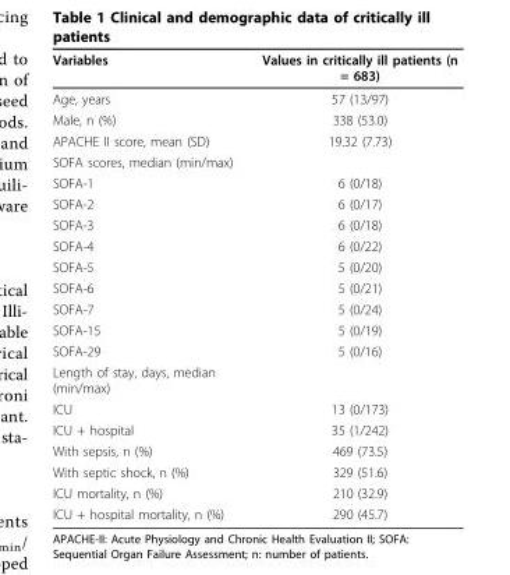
<table><thead><tr><td>Variables</td><td>Values in critically ill patients (n = 683)</td></tr></thead><tbody><tr><td>Age, years</td><td>57 (13/97)</td></tr><tr><td>Male, n (%)</td><td>338 (53.0)</td></tr><tr><td>APACHE II score, mean (SD)</td><td>19.32 (7.73)</td></tr><tr><td colspan="2">SOFA scores, median (min/max)</td></tr><tr><td>SOFA-1</td><td>6 (0/18)</td></tr><tr><td>SOFA-2</td><td>6 (0/17)</td></tr><tr><td>SOFA-3</td><td>6 (0/18)</td></tr><tr><td>SOFA-4</td><td>6 (0/22)</td></tr><tr><td>SOFA-5</td><td>5 (0/20)</td></tr><tr><td>SOFA-6</td><td>5 (0/21)</td></tr><tr><td>SOFA-7</td><td>5 (0/24)</td></tr><tr><td>SOFA-15</td><td>5 (0/19)</td></tr><tr><td>SOFA-29</td><td>5 (0/16)</td></tr><tr><td colspan="2">Length of stay, days, median (min/max)</td></tr><tr><td>ICU</td><td>13 (0/173)</td></tr><tr><td>ICU + hospital</td><td>35 (1/242)</td></tr><tr><td>With sepsis, n (%)</td><td>469 (73.5)</td></tr><tr><td>With septic shock, n (%)</td><td>329 (51.6)</td></tr><tr><td>ICU mortality, n (%)</td><td>210 (32.9)</td></tr><tr><td>ICU + hospital mortality, n (%)</td><td>290 (45.7)</td></tr></tbody></table>